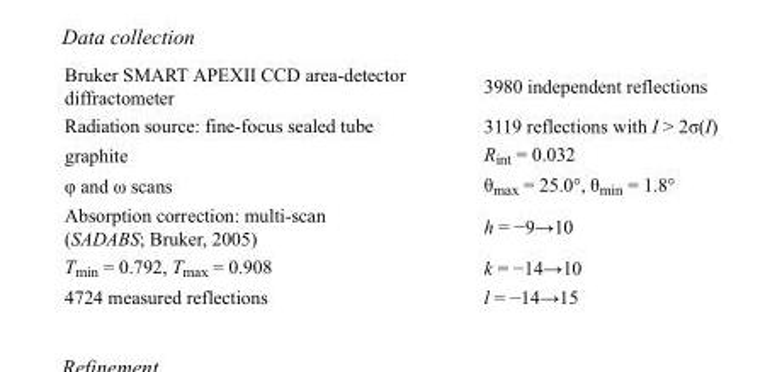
<table><tbody><tr><td>Bruker SMART APEXII CCD area-detector diffractometer</td><td>3980 independent reflections</td></tr><tr><td>Radiation source: fine-focus sealed tube</td><td>3119 reflections with I &gt; 2σ(I)</td></tr><tr><td>graphite</td><td>R<sub>int</sub> = 0.032</td></tr><tr><td>φ and ω scans</td><td>θ<sub>max</sub> = 25.0°, θ<sub>min</sub> = 1.8°</td></tr><tr><td>Absorption correction: multi-scan (SADABS; Bruker, 2005)</td><td>h = −9→10</td></tr><tr><td>T<sub>min</sub> = 0.792, T<sub>max</sub> = 0.908</td><td>k = −14→10</td></tr><tr><td>4724 measured reflections</td><td>l = −14→15</td></tr></tbody></table>